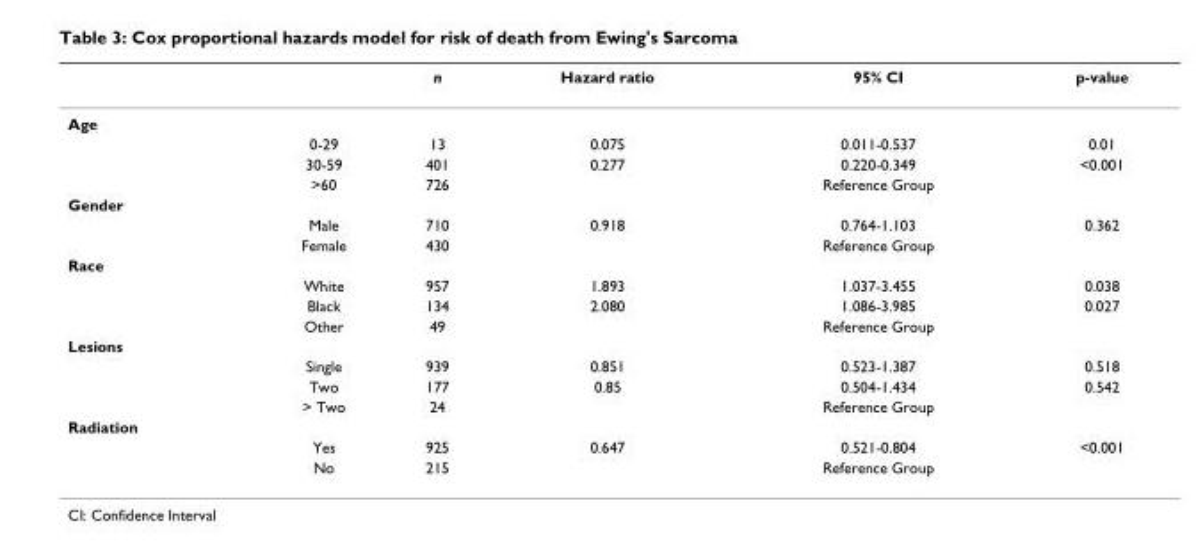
<table><thead><tr><td></td><td></td><td>n</td><td>Hazard ratio</td><td>95% CI</td><td>p-value</td></tr></thead><tbody><tr><td colspan="6">Age</td></tr><tr><td></td><td>0-29</td><td>13</td><td>0.075</td><td>0.011-0.537</td><td>0.01</td></tr><tr><td></td><td>30-59</td><td>401</td><td>0.277</td><td>0.220-0.349</td><td>&lt;0.001</td></tr><tr><td></td><td>&gt;60</td><td>726</td><td></td><td>Reference Group</td><td></td></tr><tr><td colspan="6">Gender</td></tr><tr><td></td><td>Male</td><td>710</td><td>0.918</td><td>0.764-1.103</td><td>0.362</td></tr><tr><td></td><td>Female</td><td>430</td><td></td><td>Reference Group</td><td></td></tr><tr><td colspan="6">Race</td></tr><tr><td></td><td>White</td><td>957</td><td>1.893</td><td>1.037-3.455</td><td>0.038</td></tr><tr><td></td><td>Black</td><td>134</td><td>2.080</td><td>1.086-3.985</td><td>0.027</td></tr><tr><td></td><td>Other</td><td>49</td><td></td><td>Reference Group</td><td></td></tr><tr><td colspan="6">Lesions</td></tr><tr><td></td><td>Single</td><td>939</td><td>0.851</td><td>0.523-1.387</td><td>0.518</td></tr><tr><td></td><td>Two</td><td>177</td><td>0.85</td><td>0.504-1.434</td><td>0.542</td></tr><tr><td></td><td>&gt; Two</td><td>24</td><td></td><td>Reference Group</td><td></td></tr><tr><td colspan="6">Radiation</td></tr><tr><td></td><td>Yes</td><td>925</td><td>0.647</td><td>0.521-0.804</td><td>&lt;0.001</td></tr><tr><td></td><td>No</td><td>215</td><td></td><td>Reference Group</td><td></td></tr></tbody></table>